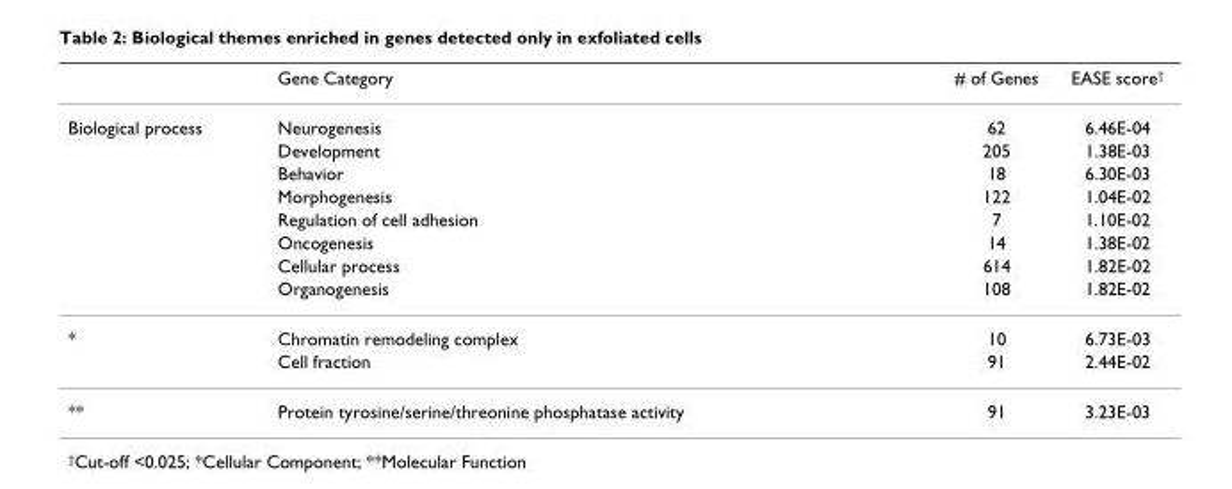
<table><thead><tr><td></td><td>Gene Category</td><td># of Genes</td><td>EASE score<sup>†</sup></td></tr></thead><tbody><tr><td rowspan="8">Biological process</td><td>Neurogenesis</td><td>62</td><td>6.46E-04</td></tr><tr><td>Development</td><td>205</td><td>1.38E-03</td></tr><tr><td>Behavior</td><td>18</td><td>6.30E-03</td></tr><tr><td>Morphogenesis</td><td>122</td><td>1.04E-02</td></tr><tr><td>Regulation of cell adhesion</td><td>7</td><td>1.10E-02</td></tr><tr><td>Oncogenesis</td><td>14</td><td>1.38E-02</td></tr><tr><td>Cellular process</td><td>614</td><td>1.82E-02</td></tr><tr><td>Organogenesis</td><td>108</td><td>1.82E-02</td></tr><tr><td rowspan="2">*</td><td>Chromatin remodeling complex</td><td>10</td><td>6.73E-03</td></tr><tr><td>Cell fraction</td><td>91</td><td>2.44E-02</td></tr><tr><td>**</td><td>Protein tyrosine/serine/threonine phosphatase activity</td><td>91</td><td>3.23E-03</td></tr></tbody></table>